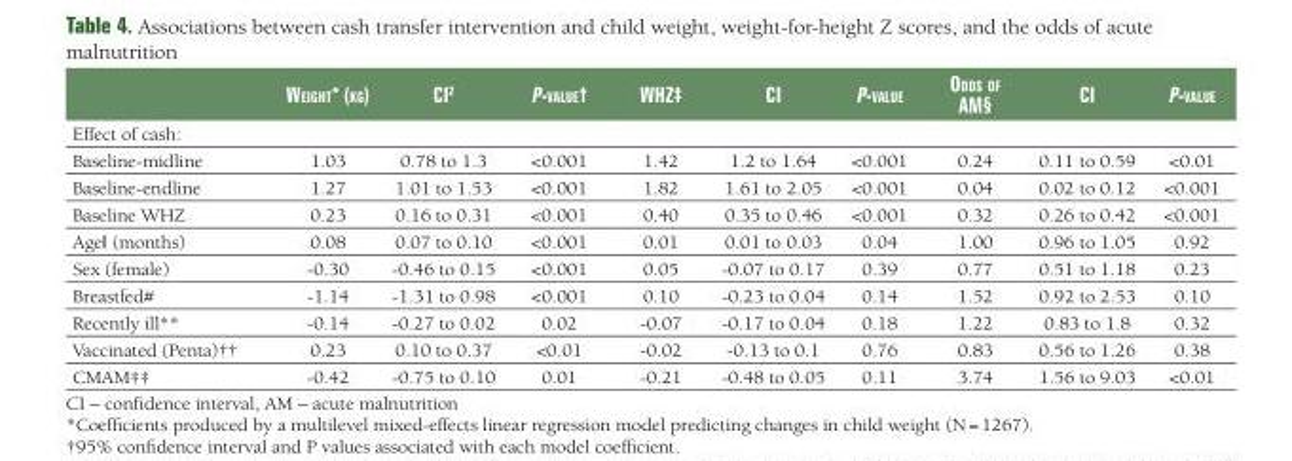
<table><thead><tr><td></td><td>Weight* (kg)</td><td>Ci<sup>2</sup></td><td>P-Value†</td><td>WhZ‡</td><td>Ci</td><td>P-Value</td><td>odds of am§</td><td>Ci</td><td>P-Value</td></tr></thead><tbody><tr><td colspan="10">Effect of cash:</td></tr><tr><td>Baseline-midline</td><td>1.03</td><td>0.78 to 1.3</td><td>&lt;0.001</td><td>1.42</td><td>1.2 to 1.64</td><td>&lt;0.001</td><td>0.24</td><td>0.11 to 0.59</td><td>&lt;0.01</td></tr><tr><td>Baseline-endline</td><td>1.27</td><td>1.01 to 1.53</td><td>&lt;0.001</td><td>1.82</td><td>1.61 to 2.05</td><td>&lt;0.001</td><td>0.04</td><td>0.02 to 0.12</td><td>&lt;0.001</td></tr><tr><td>Baseline WHZ</td><td>0.23</td><td>0.16 to 0.31</td><td>&lt;0.001</td><td>0.40</td><td>0.35 to 0.46</td><td>&lt;0.001</td><td>0.32</td><td>0.26 to 0.42</td><td>&lt;0.001</td></tr><tr><td>Age‖ (months)</td><td>0.08</td><td>0.07 to 0.10</td><td>&lt;0.001</td><td>0.01</td><td>0.01 to 0.03</td><td>0.04</td><td>1.00</td><td>0.96 to 1.05</td><td>0.92</td></tr><tr><td>Sex (female)</td><td>-0.30</td><td>-0.46 to 0.15</td><td>&lt;0.001</td><td>0.05</td><td>-0.07 to 0.17</td><td>0.39</td><td>0.77</td><td>0.51 to 1.18</td><td>0.23</td></tr><tr><td>Breastfed#</td><td>-1.14</td><td>-1.31 to 0.98</td><td>&lt;0.001</td><td>0.10</td><td>-0.23 to 0.04</td><td>0.14</td><td>1.52</td><td>0.92 to 2.53</td><td>0.10</td></tr><tr><td>Recently ill**</td><td>-0.14</td><td>-0.27 to 0.02</td><td>0.02</td><td>-0.07</td><td>-0.17 to 0.04</td><td>0.18</td><td>1.22</td><td>0.83 to 1.8</td><td>0.32</td></tr><tr><td>Vaccinated (Penta)††</td><td>0.23</td><td>0.10 to 0.37</td><td>&lt;0.01</td><td>-0.02</td><td>-0.13 to 0.1</td><td>0.76</td><td>0.83</td><td>0.56 to 1.26</td><td>0.38</td></tr><tr><td>CMAM‡‡</td><td>-0.42</td><td>-0.75 to 0.10</td><td>0.01</td><td>-0.21</td><td>-0.48 to 0.05</td><td>0.11</td><td>3.74</td><td>1.56 to 9.03</td><td>&lt;0.01</td></tr></tbody></table>